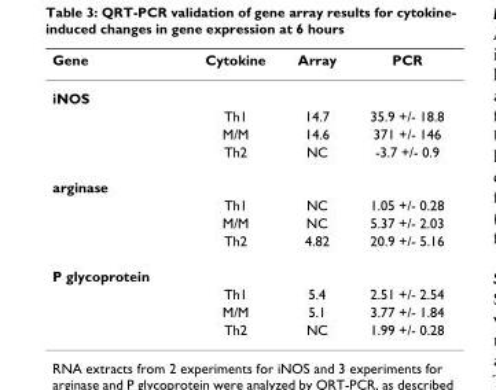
<table><thead><tr><td>Gene</td><td>Cytokine</td><td>Array</td><td>PCR</td></tr></thead><tbody><tr><td colspan="4">iNOS</td></tr><tr><td></td><td>Th1</td><td>14.7</td><td>35.9 +/- 18.8</td></tr><tr><td></td><td>M/M</td><td>14.6</td><td>371 +/- 146</td></tr><tr><td></td><td>Th2</td><td>NC</td><td>-3.7 +/- 0.9</td></tr><tr><td colspan="4">arginase</td></tr><tr><td></td><td>Th1</td><td>NC</td><td>1.05 +/- 0.28</td></tr><tr><td></td><td>M/M</td><td>NC</td><td>5.37 +/- 2.03</td></tr><tr><td></td><td>Th2</td><td>4.82</td><td>20.9 +/- 5.16</td></tr><tr><td colspan="4">P glycoprotein</td></tr><tr><td></td><td>Th1</td><td>5.4</td><td>2.51 +/- 2.54</td></tr><tr><td></td><td>M/M</td><td>5.1</td><td>3.77 +/- 1.84</td></tr><tr><td></td><td>Th2</td><td>NC</td><td>1.99 +/- 0.28</td></tr></tbody></table>